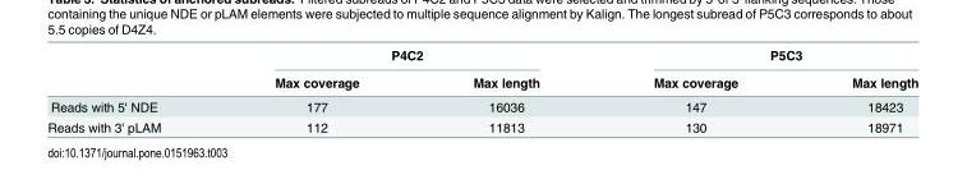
<table><thead><tr><td rowspan="2"></td><td colspan="2">P4C2</td><td colspan="2">P5C3</td></tr><tr><td>Max coverage</td><td>Max length</td><td>Max coverage</td><td>Max length</td></tr></thead><tbody><tr><td>Reads with 5&#x27; NDE</td><td>177</td><td>16036</td><td>147</td><td>18423</td></tr><tr><td>Reads with 3&#x27; pLAM</td><td>112</td><td>11813</td><td>130</td><td>18971</td></tr></tbody></table>